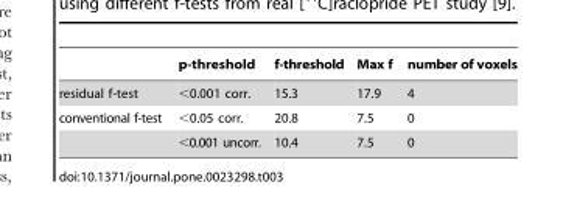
<table><thead><tr><td></td><td>p-threshold</td><td>f-threshold</td><td>Max f</td><td>number of voxels</td></tr></thead><tbody><tr><td>residual f-test</td><td>&lt;0.001 corr.</td><td>15.3</td><td>17.9</td><td>4</td></tr><tr><td rowspan="2">conventional f-test</td><td>&lt;0.05 corr.</td><td>20.8</td><td>7.5</td><td>0</td></tr><tr><td>&lt;0.001 uncorr.</td><td>10.4</td><td>7.5</td><td>0</td></tr></tbody></table>